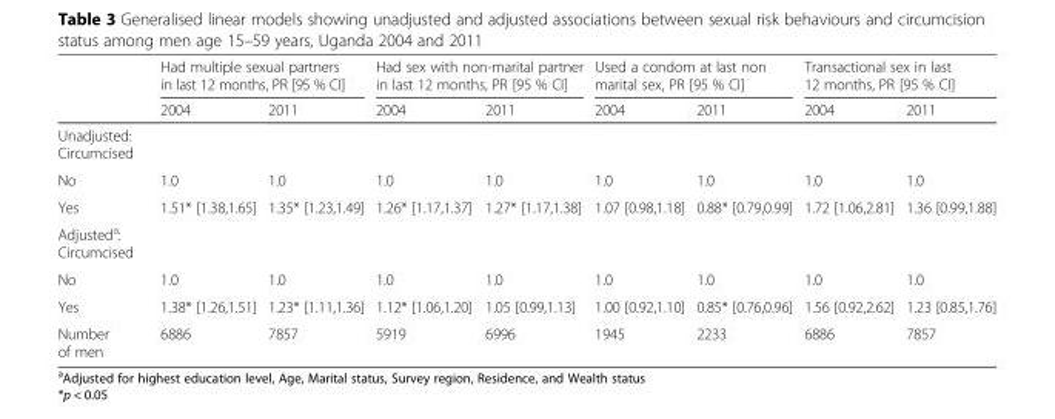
<table><thead><tr><td rowspan="2"></td><td colspan="2">Had multiple sexual partners in last 12 months, PR [95 % CI]</td><td colspan="2">Had sex with non-marital partner in last 12 months, PR [95 % CI]</td><td colspan="2">Used a condom at last non marital sex, PR [95 % CI]</td><td colspan="2">Transactional sex in last 12 months, PR [95 % CI]</td></tr><tr><td>2004</td><td>2011</td><td>2004</td><td>2011</td><td>2004</td><td>2011</td><td>2004</td><td>2011</td></tr></thead><tbody><tr><td colspan="9">Unadjusted: Circumcised</td></tr><tr><td>No</td><td>1.0</td><td>1.0</td><td>1.0</td><td>1.0</td><td>1.0</td><td>1.0</td><td>1.0</td><td>1.0</td></tr><tr><td>Yes</td><td>1.51* [1.38,1.65]</td><td>1.35* [1.23,1.49]</td><td>1.26* [1.17,1.37]</td><td>1.27* [1.17,1.38]</td><td>1.07 [0.98,1.18]</td><td>0.88* [0.79,0.99]</td><td>1.72 [1.06,2.81]</td><td>1.36 [0.99,1.88]</td></tr><tr><td colspan="9">Adjusted<sup>a</sup>: Circumcised</td></tr><tr><td>No</td><td>1.0</td><td>1.0</td><td>1.0</td><td>1.0</td><td>1.0</td><td>1.0</td><td>1.0</td><td>1.0</td></tr><tr><td>Yes</td><td>1.38* [1.26,1.51]</td><td>1.23* [1.11,1.36]</td><td>1.12* [1.06,1.20]</td><td>1.05 [0.99,1.13]</td><td>1.00 [0.92,1.10]</td><td>0.85* [0.76,0.96]</td><td>1.56 [0.92,2.62]</td><td>1.23 [0.85,1.76]</td></tr><tr><td>Number of men</td><td>6886</td><td>7857</td><td>5919</td><td>6996</td><td>1945</td><td>2233</td><td>6886</td><td>7857</td></tr></tbody></table>